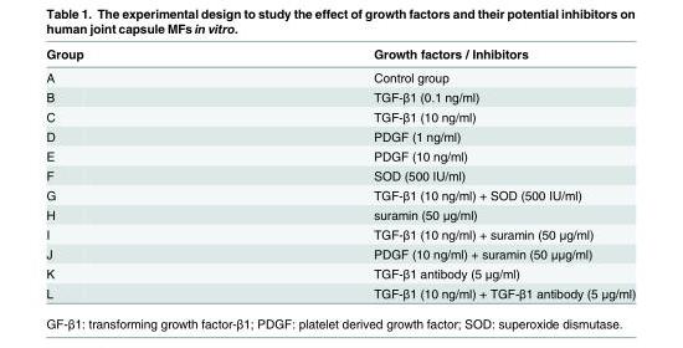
<table><thead><tr><td>Group</td><td>Growth factors / Inhibitors</td></tr></thead><tbody><tr><td>A</td><td>Control group</td></tr><tr><td>B</td><td>TGF-β1 (0.1 ng/ml)</td></tr><tr><td>C</td><td>TGF-β1 (10 ng/ml)</td></tr><tr><td>D</td><td>PDGF (1 ng/ml)</td></tr><tr><td>E</td><td>PDGF (10 ng/ml)</td></tr><tr><td>F</td><td>SOD (500 IU/ml)</td></tr><tr><td>G</td><td>TGF-β1 (10 ng/ml) + SOD (500 IU/ml)</td></tr><tr><td>H</td><td>suramin (50 μg/ml)</td></tr><tr><td>I</td><td>TGF-β1 (10 ng/ml) + suramin (50 μg/ml)</td></tr><tr><td>J</td><td>PDGF (10 ng/ml) + suramin (50 μμg/ml)</td></tr><tr><td>K</td><td>TGF-β1 antibody (5 μg/ml)</td></tr><tr><td>L</td><td>TGF-β1 (10 ng/ml) + TGF-β1 antibody (5 μg/ml)</td></tr></tbody></table>